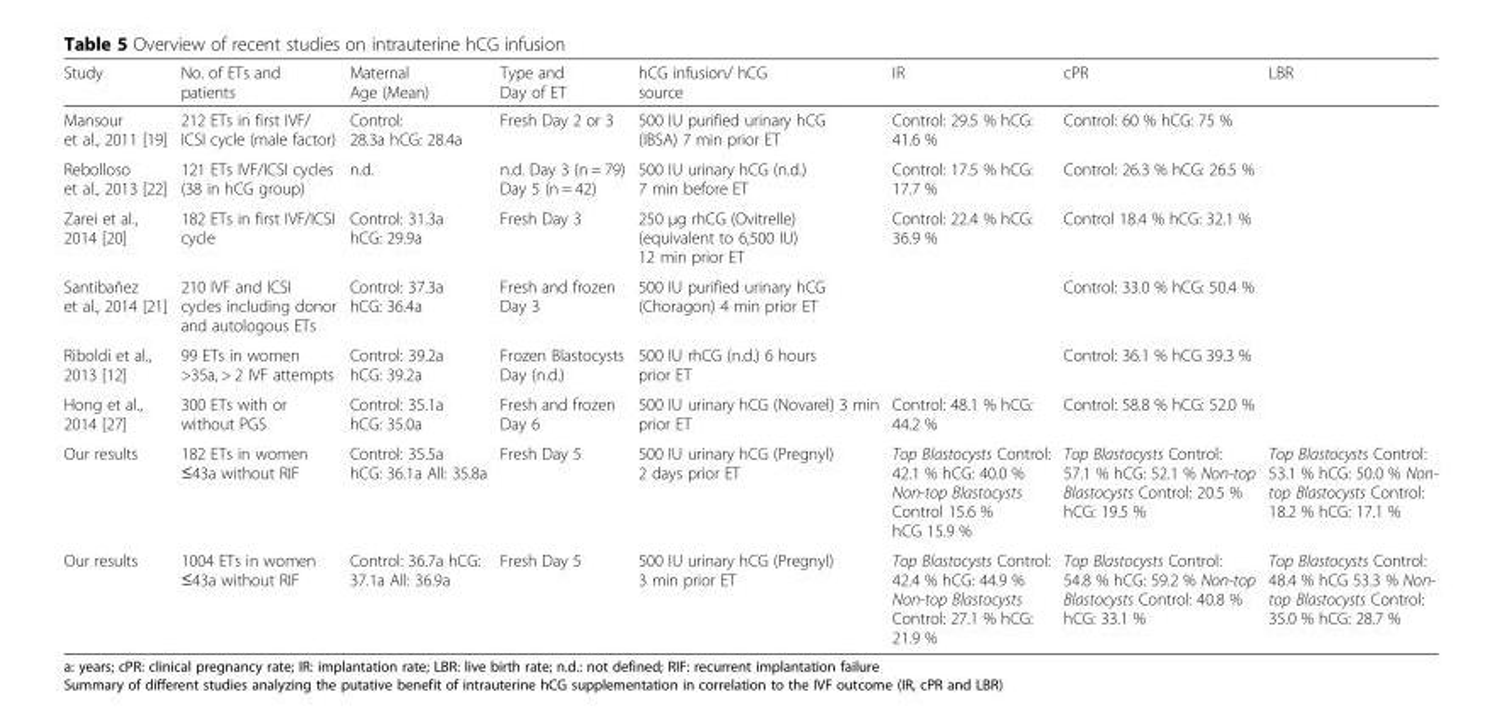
<table><thead><tr><td>Study</td><td>No. of ETs and patients</td><td>Maternal Age (Mean)</td><td>Type and Day of ET</td><td>hCG infusion/ hCG source</td><td>IR</td><td>cPR</td><td>LBR</td></tr></thead><tbody><tr><td>Mansour et al., 2011 [19]</td><td>212 ETs in first IVF/ ICSI cycle (male factor)</td><td>Control: 28.3a hCG: 28.4a</td><td>Fresh Day 2 or 3</td><td>500 IU purified urinary hCG (IBSA) 7 min prior ET</td><td>Control: 29.5 % hCG: 41.6 %</td><td>Control: 60 % hCG: 75 %</td><td></td></tr><tr><td>Rebolloso et al., 2013 [22]</td><td>121 ETs IVF/ICSI cycles (38 in hCG group)</td><td>n.d.</td><td>n.d. Day 3 (n = 79) Day 5 (n = 42)</td><td>500 IU urinary hCG (n.d.) 7 min before ET</td><td>Control: 17.5 % hCG: 17.7 %</td><td>Control: 26.3 % hCG: 26.5 %</td><td></td></tr><tr><td>Zarei et al., 2014 [20]</td><td>182 ETs in first IVF/ICSI cycle</td><td>Control: 31.3a hCG: 29.9a</td><td>Fresh Day 3</td><td>250 μg rhCG (Ovitrelle) (equivalent to 6,500 IU) 12 min prior ET</td><td>Control: 22.4 % hCG: 36.9 %</td><td>Control 18.4 % hCG: 32.1 %</td><td></td></tr><tr><td>Santibañez et al., 2014 [21]</td><td>210 IVF and ICSI cycles including donor and autologous ETs</td><td>Control: 37.3a hCG: 36.4a</td><td>Fresh and frozen Day 3</td><td>500 IU purified urinary hCG (Choragon) 4 min prior ET</td><td></td><td>Control: 33.0 % hCG: 50.4 %</td><td></td></tr><tr><td>Riboldi et al., 2013 [12]</td><td>99 ETs in women &gt;35a, &gt; 2 IVF attempts</td><td>Control: 39.2a hCG: 39.2a</td><td>Frozen Blastocysts Day (n.d.)</td><td>500 IU rhCG (n.d.) 6 hours prior ET</td><td></td><td>Control: 36.1 % hCG 39.3 %</td><td></td></tr><tr><td>Hong et al., 2014 [27]</td><td>300 ETs with or without PGS</td><td>Control: 35.1a hCG: 35.0a</td><td>Fresh and frozen Day 6</td><td>500 IU urinary hCG (Novarel) 3 min prior ET</td><td>Control: 48.1 % hCG: 44.2 %</td><td>Control: 58.8 % hCG: 52.0 %</td><td></td></tr><tr><td>Our results</td><td>182 ETs in women ≤43a without RIF</td><td>Control: 35.5a hCG: 36.1a All: 35.8a</td><td>Fresh Day 5</td><td>500 IU urinary hCG (Pregnyl) 2 days prior ET</td><td>Top Blastocysts Control: 42.1 % hCG: 40.0 % Non-top Blastocysts Control 15.6 % hCG 15.9 %</td><td>Top Blastocysts Control: 57.1 % hCG: 52.1 % Non-top Blastocysts Control: 20.5 % hCG: 19.5 %</td><td>Top Blastocysts Control: 53.1 % hCG: 50.0 % Non- top Blastocysts Control: 18.2 % hCG: 17.1 %</td></tr><tr><td>Our results</td><td>1004 ETs in women ≤43a without RIF</td><td>Control: 36.7a hCG: 37.1a All: 36.9a</td><td>Fresh Day 5</td><td>500 IU urinary hCG (Pregnyl) 3 min prior ET</td><td>Top Blastocysts Control: 42.4 % hCG: 44.9 % Non-top Blastocysts Control: 27.1 % hCG: 21.9 %</td><td>Top Blastocysts Control: 54.8 % hCG: 59.2 % Non-top Blastocysts Control: 40.8 % hCG: 33.1 %</td><td>Top Blastocysts Control: 48.4 % hCG 53.3 % Non- top Blastocysts Control: 35.0 % hCG: 28.7 %</td></tr></tbody></table>